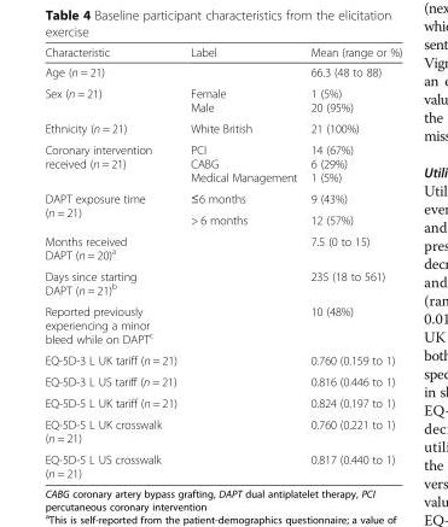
<table><thead><tr><td>Characteristic</td><td>Label</td><td>Mean (range or %)</td></tr></thead><tbody><tr><td>Age (n = 21)</td><td></td><td>66.3 (48 to 88)</td></tr><tr><td>Sex (n = 21)</td><td>Female Male</td><td>1 (5%) 20 (95%)</td></tr><tr><td>Ethnicity (n = 21)</td><td>White British</td><td>21 (100%)</td></tr><tr><td>Coronary intervention received (n = 21)</td><td>PCI CABG Medical Management</td><td>14 (67%) 6 (29%) 1 (5%)</td></tr><tr><td rowspan="2">DAPT exposure time (n = 21)</td><td>≤6 months</td><td>9 (43%)</td></tr><tr><td>&gt; 6 months</td><td>12 (57%)</td></tr><tr><td>Months received DAPT (n = 20)<sup>a</sup></td><td></td><td>7.5 (0 to 15)</td></tr><tr><td>Days since starting DAPT (n = 21)<sup>b</sup></td><td></td><td>235 (18 to 561)</td></tr><tr><td>Reported previously experiencing a minor bleed while on DAPT<sup>c</sup></td><td></td><td>10 (48%)</td></tr><tr><td>EQ-5D-3 L UK tariff (n = 21)</td><td></td><td>0.760 (0.159 to 1)</td></tr><tr><td>EQ-5D-3 L US tariff (n = 21)</td><td></td><td>0.816 (0.446 to 1)</td></tr><tr><td>EQ-5D-5 L UK tariff (n = 21)</td><td></td><td>0.824 (0.197 to 1)</td></tr><tr><td>EQ-5D-5 L UK crosswalk (n = 21)</td><td></td><td>0.760 (0.221 to 1)</td></tr><tr><td>EQ-5D-5 L US crosswalk (n = 21)</td><td></td><td>0.817 (0.440 to 1)</td></tr></tbody></table>